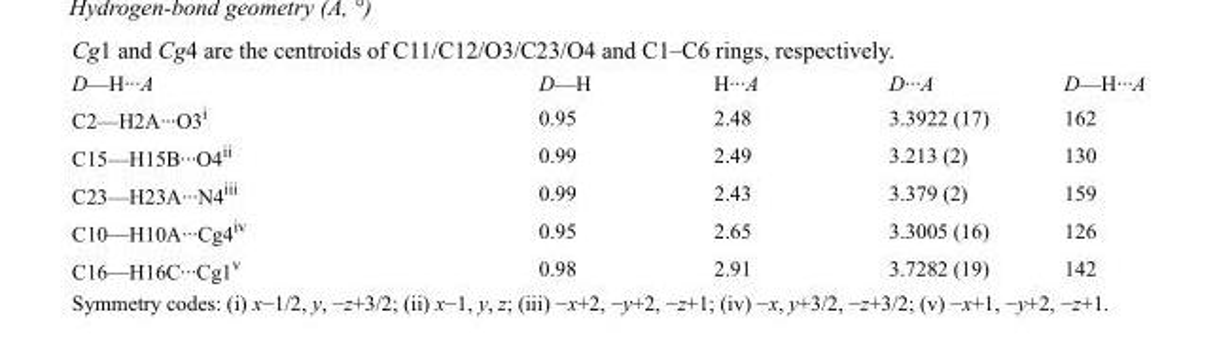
<table><tbody><tr><td>D—H···A</td><td>D—H</td><td>H···A</td><td>D···A</td><td>D—H···A</td></tr><tr><td>C2—H2A···O3<sup>i</sup></td><td>0.95</td><td>2.48</td><td>3.3922 (17)</td><td>162</td></tr><tr><td>C15—H15B···O4<sup>ii</sup></td><td>0.99</td><td>2.49</td><td>3.213 (2)</td><td>130</td></tr><tr><td>C23—H23A···N4<sup>iii</sup></td><td>0.99</td><td>2.43</td><td>3.379 (2)</td><td>159</td></tr><tr><td>C10—H10A···Cg4<sup>iv</sup></td><td>0.95</td><td>2.65</td><td>3.3005 (16)</td><td>126</td></tr><tr><td>C16—H16C···Cg1<sup>v</sup></td><td>0.98</td><td>2.91</td><td>3.7282 (19)</td><td>142</td></tr></tbody></table>